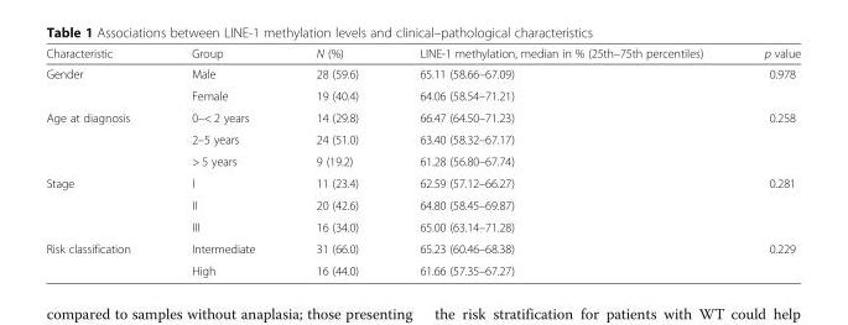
<table><thead><tr><td>Characteristic</td><td>Group</td><td>N (%)</td><td>LINE-1 methylation, median in % (25th–75th percentiles)</td><td>p value</td></tr></thead><tbody><tr><td rowspan="2">Gender</td><td>Male</td><td>28 (59.6)</td><td>65.11 (58.66–67.09)</td><td rowspan="2">0.978</td></tr><tr><td>Female</td><td>19 (40.4)</td><td>64.06 (58.54–71.21)</td></tr><tr><td rowspan="3">Age at diagnosis</td><td>0–&lt; 2 years</td><td>14 (29.8)</td><td>66.47 (64.50–71.23)</td><td rowspan="3">0.258</td></tr><tr><td>2–5 years</td><td>24 (51.0)</td><td>63.40 (58.32–67.17)</td></tr><tr><td>&gt; 5 years</td><td>9 (19.2)</td><td>61.28 (56.80–67.74)</td></tr><tr><td rowspan="3">Stage</td><td>I</td><td>11 (23.4)</td><td>62.59 (57.12–66.27)</td><td rowspan="3">0.281</td></tr><tr><td>II</td><td>20 (42.6)</td><td>64.80 (58.45–69.87)</td></tr><tr><td>III</td><td>16 (34.0)</td><td>65.00 (63.14–71.28)</td></tr><tr><td rowspan="2">Risk classification</td><td>Intermediate</td><td>31 (66.0)</td><td>65.23 (60.46–68.38)</td><td rowspan="2">0.229</td></tr><tr><td>High</td><td>16 (44.0)</td><td>61.66 (57.35–67.27)</td></tr></tbody></table>